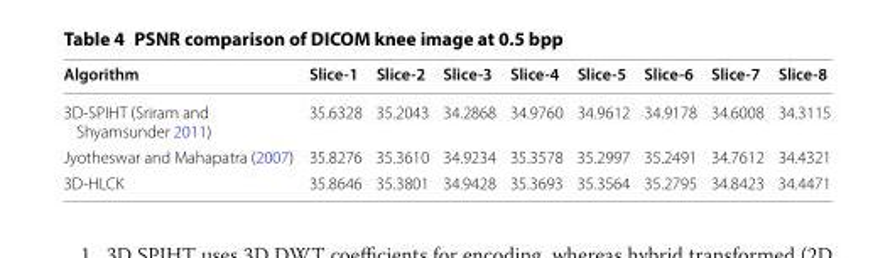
<table><thead><tr><td>Algorithm</td><td>Slice‑1</td><td>Slice‑2</td><td>Slice‑3</td><td>Slice‑4</td><td>Slice‑5</td><td>Slice‑6</td><td>Slice‑7</td><td>Slice‑8</td></tr></thead><tbody><tr><td>3D-SPIHT (Sriram and Shyamsunder 2011)</td><td>35.6328</td><td>35.2043</td><td>34.2868</td><td>34.9760</td><td>34.9612</td><td>34.9178</td><td>34.6008</td><td>34.3115</td></tr><tr><td>Jyotheswar and Mahapatra (2007)</td><td>35.8276</td><td>35.3610</td><td>34.9234</td><td>35.3578</td><td>35.2997</td><td>35.2491</td><td>34.7612</td><td>34.4321</td></tr><tr><td>3D-HLCK</td><td>35.8646</td><td>35.3801</td><td>34.9428</td><td>35.3693</td><td>35.3564</td><td>35.2795</td><td>34.8423</td><td>34.4471</td></tr></tbody></table>